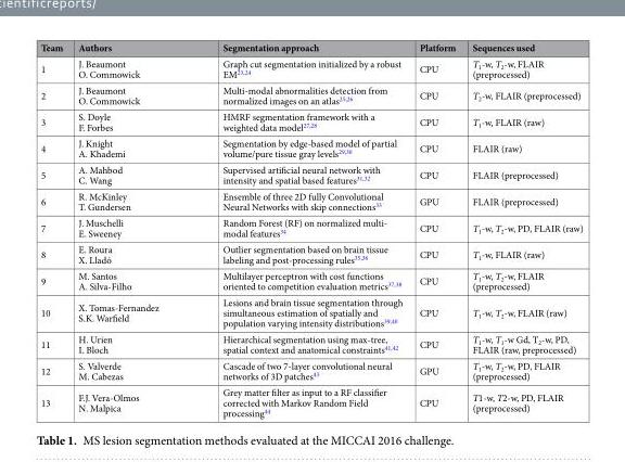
<table><thead><tr><td>Team</td><td>Authors</td><td>Segmentation approach</td><td>Platform</td><td>Sequences used</td></tr></thead><tbody><tr><td>1</td><td>J. Beaumont O. Commowick</td><td>Graph cut segmentation initialized by a robust EM<sup>23,24</sup></td><td>CPU</td><td>T<sub>1</sub>-w, T<sub>2</sub>-w, FLAIR (preprocessed)</td></tr><tr><td>2</td><td>J. Beaumont O. Commowick</td><td>Multi-modal abnormalities detection from normalized images on an atlas<sup>25,26</sup></td><td>CPU</td><td>T<sub>2</sub>-w, FLAIR (preprocessed)</td></tr><tr><td>3</td><td>S. Doyle F. Forbes</td><td>HMRF segmentation framework with a weighted data model<sup>27,28</sup></td><td>CPU</td><td>T<sub>1</sub>-w, FLAIR (raw)</td></tr><tr><td>4</td><td>J. Knight A. Khademi</td><td>Segmentation by edge-based model of partial volume/pure tissue gray levels<sup>29,30</sup></td><td>CPU</td><td>FLAIR (raw)</td></tr><tr><td>5</td><td>A. Mahbod C. Wang</td><td>Supervised artificial neural network with intensity and spatial based features<sup>31,32</sup></td><td>CPU</td><td>FLAIR (preprocessed)</td></tr><tr><td>6</td><td>R. McKinley T. Gundersen</td><td>Ensemble of three 2D fully Convolutional Neural Networks with skip connections<sup>33</sup></td><td>GPU</td><td>FLAIR (preprocessed)</td></tr><tr><td>7</td><td>J. Muschelli E. Sweeney</td><td>Random Forest (RF) on normalized multi- modal features<sup>34</sup></td><td>CPU</td><td>T<sub>1</sub>-w, T<sub>2</sub>-w, PD, FLAIR (raw)</td></tr><tr><td>8</td><td>E. Roura X. Lladó</td><td>Outlier segmentation based on brain tissue labeling and post-processing rules<sup>35,36</sup></td><td>CPU</td><td>T<sub>1</sub>-w, FLAIR (raw)</td></tr><tr><td>9</td><td>M. Santos A. Silva-Filho</td><td>Multilayer perceptron with cost functions oriented to competition evaluation metrics<sup>37,38</sup></td><td>CPU</td><td>T<sub>1</sub>-w, T<sub>2</sub>-w, FLAIR (preprocessed)</td></tr><tr><td>10</td><td>X. Tomas-Fernandez S.K. Warfield</td><td>Lesions and brain tissue segmentation through simultaneous estimation of spatially and population varying intensity distributions<sup>39,40</sup></td><td>CPU</td><td>T<sub>1</sub>-w, T<sub>2</sub>-w, FLAIR (raw)</td></tr><tr><td>11</td><td>H. Urien I. Bloch</td><td>Hierarchical segmentation using max-tree, spatial context and anatomical constraints<sup>41,42</sup></td><td>CPU</td><td>T<sub>1</sub>-w, T<sub>1</sub>-w Gd, T<sub>2</sub>-w, PD, FLAIR (raw, preprocessed)</td></tr><tr><td>12</td><td>S. Valverde M. Cabezas</td><td>Cascade of two 7-layer convolutional neural networks of 3D patches<sup>43</sup></td><td>GPU</td><td>T<sub>1</sub>-w, T<sub>2</sub>-w, PD, FLAIR (preprocessed)</td></tr><tr><td>13</td><td>F.J. Vera-Olmos N. Malpica</td><td>Grey matter filter as input to a RF classifier corrected with Markov Random Field processing<sup>44</sup></td><td>CPU</td><td>T1-w, T2-w, PD, FLAIR (preprocessed)</td></tr></tbody></table>